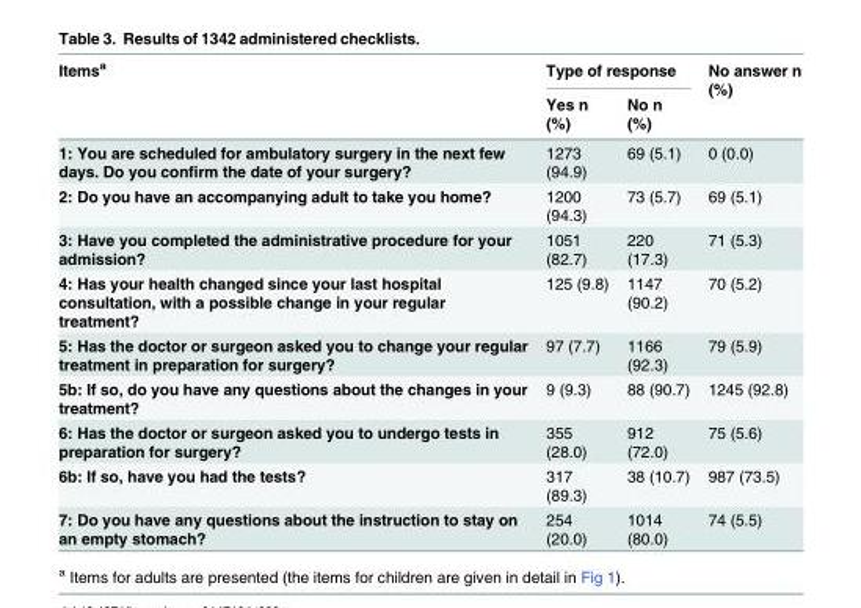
<table><thead><tr><td rowspan="2">Items<sup>a</sup></td><td colspan="2">Type of response</td><td rowspan="2">No answer n (%)</td></tr><tr><td>Yes n (%)</td><td>No n (%)</td></tr></thead><tbody><tr><td>1: You are scheduled for ambulatory surgery in the next few days. Do you confirm the date of your surgery?</td><td>1273 (94.9)</td><td>69 (5.1)</td><td>0 (0.0)</td></tr><tr><td>2: Do you have an accompanying adult to take you home?</td><td>1200 (94.3)</td><td>73 (5.7)</td><td>69 (5.1)</td></tr><tr><td>3: Have you completed the administrative procedure for your admission?</td><td>1051 (82.7)</td><td>220 (17.3)</td><td>71 (5.3)</td></tr><tr><td>4: Has your health changed since your last hospital consultation, with a possible change in your regular treatment?</td><td>125 (9.8)</td><td>1147 (90.2)</td><td>70 (5.2)</td></tr><tr><td>5: Has the doctor or surgeon asked you to change your regular treatment in preparation for surgery?</td><td>97 (7.7)</td><td>1166 (92.3)</td><td>79 (5.9)</td></tr><tr><td>5b: If so, do you have any questions about the changes in your treatment?</td><td>9 (9.3)</td><td>88 (90.7)</td><td>1245 (92.8)</td></tr><tr><td>6: Has the doctor or surgeon asked you to undergo tests in preparation for surgery?</td><td>355 (28.0)</td><td>912 (72.0)</td><td>75 (5.6)</td></tr><tr><td>6b: If so, have you had the tests?</td><td>317 (89.3)</td><td>38 (10.7)</td><td>987 (73.5)</td></tr><tr><td>7: Do you have any questions about the instruction to stay on an empty stomach?</td><td>254 (20.0)</td><td>1014 (80.0)</td><td>74 (5.5)</td></tr></tbody></table>